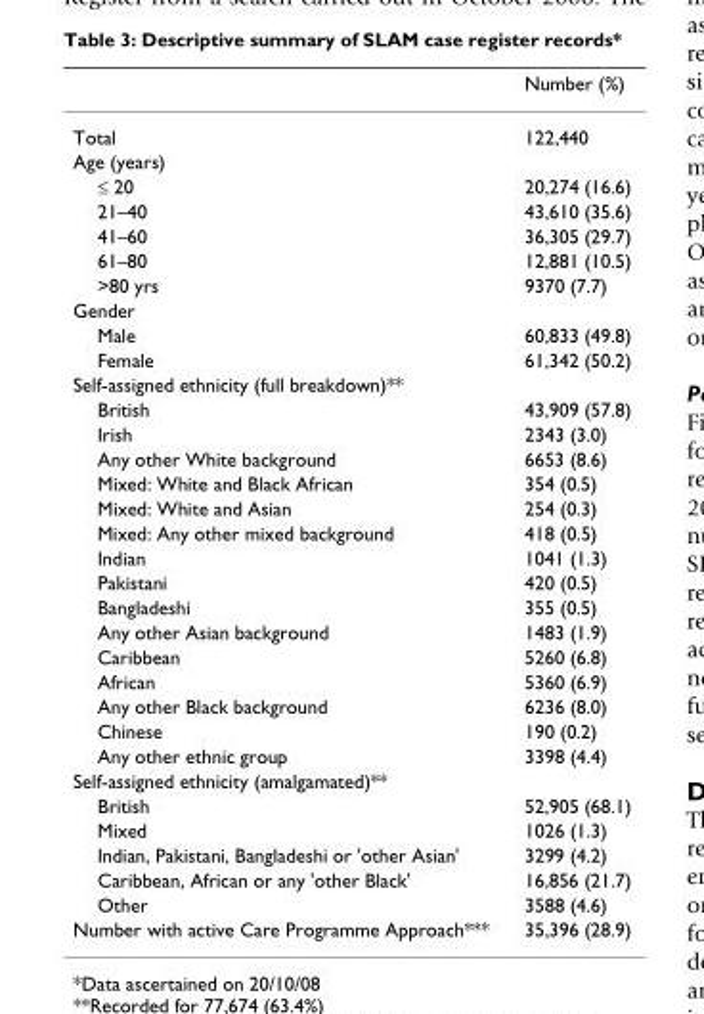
<table><thead><tr><td></td><td>Number (%)</td></tr></thead><tbody><tr><td>Total</td><td>122,440</td></tr><tr><td colspan="2">Age (years)</td></tr><tr><td>≤ 20</td><td>20,274 (16.6)</td></tr><tr><td>21–40</td><td>43,610 (35.6)</td></tr><tr><td>41–60</td><td>36,305 (29.7)</td></tr><tr><td>61–80</td><td>12,881 (10.5)</td></tr><tr><td>&gt;80 yrs</td><td>9370 (7.7)</td></tr><tr><td colspan="2">Gender</td></tr><tr><td>Male</td><td>60,833 (49.8)</td></tr><tr><td>Female</td><td>61,342 (50.2)</td></tr><tr><td colspan="2">Self-assigned ethnicity (full breakdown)**</td></tr><tr><td>British</td><td>43,909 (57.8)</td></tr><tr><td>Irish</td><td>2343 (3.0)</td></tr><tr><td>Any other White background</td><td>6653 (8.6)</td></tr><tr><td>Mixed: White and Black African</td><td>354 (0.5)</td></tr><tr><td>Mixed: White and Asian</td><td>254 (0.3)</td></tr><tr><td>Mixed: Any other mixed background</td><td>418 (0.5)</td></tr><tr><td>Indian</td><td>1041 (1.3)</td></tr><tr><td>Pakistani</td><td>420 (0.5)</td></tr><tr><td>Bangladeshi</td><td>355 (0.5)</td></tr><tr><td>Any other Asian background</td><td>1483 (1.9)</td></tr><tr><td>Caribbean</td><td>5260 (6.8)</td></tr><tr><td>African</td><td>5360 (6.9)</td></tr><tr><td>Any other Black background</td><td>6236 (8.0)</td></tr><tr><td>Chinese</td><td>190 (0.2)</td></tr><tr><td>Any other ethnic group</td><td>3398 (4.4)</td></tr><tr><td colspan="2">Self-assigned ethnicity (amalgamated)**</td></tr><tr><td>British</td><td>52,905 (68.1)</td></tr><tr><td>Mixed</td><td>1026 (1.3)</td></tr><tr><td>Indian, Pakistani, Bangladeshi or &#x27;other Asian&#x27;</td><td>3299 (4.2)</td></tr><tr><td>Caribbean, African or any &#x27;other Black&#x27;</td><td>16,856 (21.7)</td></tr><tr><td>Other</td><td>3588 (4.6)</td></tr><tr><td>Number with active Care Programme Approach***</td><td>35,396 (28.9)</td></tr></tbody></table>